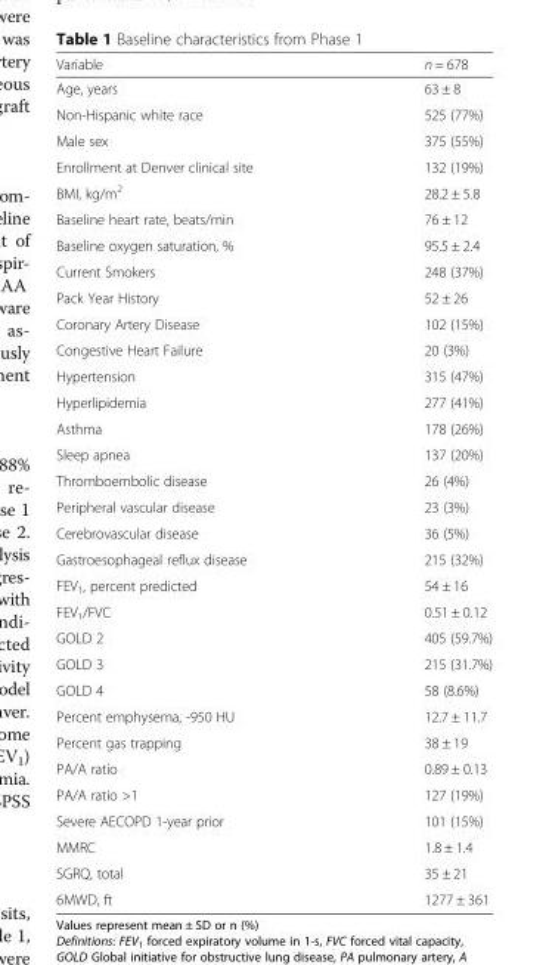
<table><thead><tr><td>Variable</td><td>n = 678</td></tr></thead><tbody><tr><td>Age, years</td><td>63 ± 8</td></tr><tr><td>Non-Hispanic white race</td><td>525 (77%)</td></tr><tr><td>Male sex</td><td>375 (55%)</td></tr><tr><td>Enrollment at Denver clinical site</td><td>132 (19%)</td></tr><tr><td>BMI, kg/m<sup>2</sup></td><td>28.2 ± 5.8</td></tr><tr><td>Baseline heart rate, beats/min</td><td>76 ± 12</td></tr><tr><td>Baseline oxygen saturation, %</td><td>95.5 ± 2.4</td></tr><tr><td>Current Smokers</td><td>248 (37%)</td></tr><tr><td>Pack Year History</td><td>52 ± 26</td></tr><tr><td>Coronary Artery Disease</td><td>102 (15%)</td></tr><tr><td>Congestive Heart Failure</td><td>20 (3%)</td></tr><tr><td>Hypertension</td><td>315 (47%)</td></tr><tr><td>Hyperlipidemia</td><td>277 (41%)</td></tr><tr><td>Asthma</td><td>178 (26%)</td></tr><tr><td>Sleep apnea</td><td>137 (20%)</td></tr><tr><td>Thromboembolic disease</td><td>26 (4%)</td></tr><tr><td>Peripheral vascular disease</td><td>23 (3%)</td></tr><tr><td>Cerebrovascular disease</td><td>36 (5%)</td></tr><tr><td>Gastroesophageal reflux disease</td><td>215 (32%)</td></tr><tr><td>FEV<sub>1</sub>, percent predicted</td><td>54 ± 16</td></tr><tr><td>FEV<sub>1</sub>/FVC</td><td>0.51 ± 0.12</td></tr><tr><td>GOLD 2</td><td>405 (59.7%)</td></tr><tr><td>GOLD 3</td><td>215 (31.7%)</td></tr><tr><td>GOLD 4</td><td>58 (8.6%)</td></tr><tr><td>Percent emphysema, -950 HU</td><td>12.7 ± 11.7</td></tr><tr><td>Percent gas trapping</td><td>38 ± 19</td></tr><tr><td>PA/A ratio</td><td>0.89 ± 0.13</td></tr><tr><td>PA/A ratio &gt;1</td><td>127 (19%)</td></tr><tr><td>Severe AECOPD 1-year prior</td><td>101 (15%)</td></tr><tr><td>MMRC</td><td>1.8 ± 1.4</td></tr><tr><td>SGRQ, total</td><td>35 ± 21</td></tr><tr><td>6MWD, ft</td><td>1277 ± 361</td></tr></tbody></table>